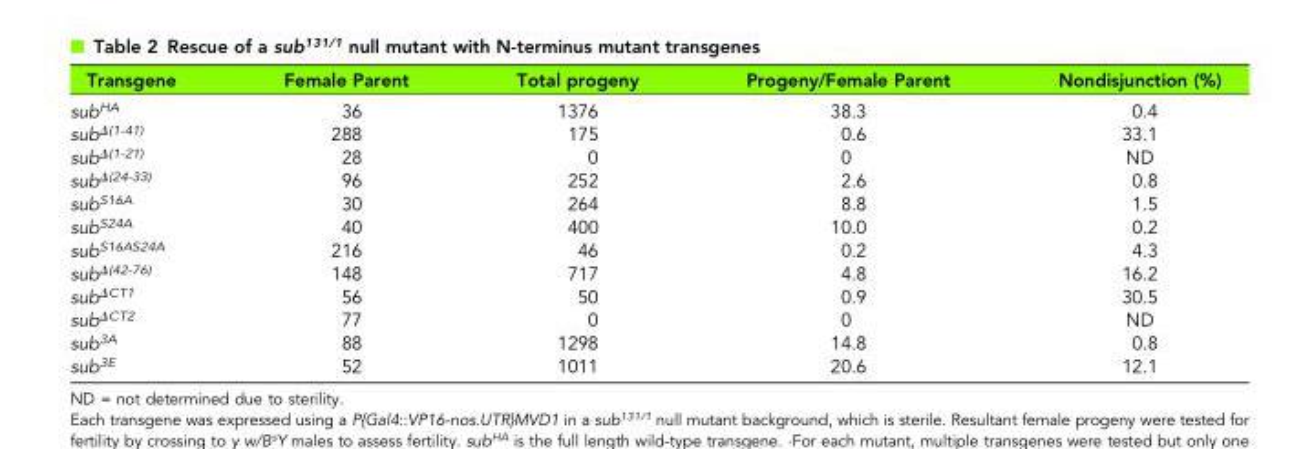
<table><thead><tr><td>Transgene</td><td>Female Parent</td><td>Total progeny</td><td>Progeny/Female Parent</td><td>Nondisjunction (%)</td></tr></thead><tbody><tr><td>sub<sup>HA</sup></td><td>36</td><td>1376</td><td>38.3</td><td>0.4</td></tr><tr><td>sub<sup>Δ(1-41)</sup></td><td>288</td><td>175</td><td>0.6</td><td>33.1</td></tr><tr><td>sub<sup>Δ(1-21)</sup></td><td>28</td><td>0</td><td>0</td><td>ND</td></tr><tr><td>sub<sup>Δ(24-33)</sup></td><td>96</td><td>252</td><td>2.6</td><td>0.8</td></tr><tr><td>sub<sup>S16A</sup></td><td>30</td><td>264</td><td>8.8</td><td>1.5</td></tr><tr><td>sub<sup>S24A</sup></td><td>40</td><td>400</td><td>10.0</td><td>0.2</td></tr><tr><td>sub<sup>S16AS24A</sup></td><td>216</td><td>46</td><td>0.2</td><td>4.3</td></tr><tr><td>sub<sup>Δ(42-76)</sup></td><td>148</td><td>717</td><td>4.8</td><td>16.2</td></tr><tr><td>sub<sup>ΔCT1</sup></td><td>56</td><td>50</td><td>0.9</td><td>30.5</td></tr><tr><td>sub<sup>ΔCT2</sup></td><td>77</td><td>0</td><td>0</td><td>ND</td></tr><tr><td>sub<sup>3A</sup></td><td>88</td><td>1298</td><td>14.8</td><td>0.8</td></tr><tr><td>sub<sup>3E</sup></td><td>52</td><td>1011</td><td>20.6</td><td>12.1</td></tr></tbody></table>